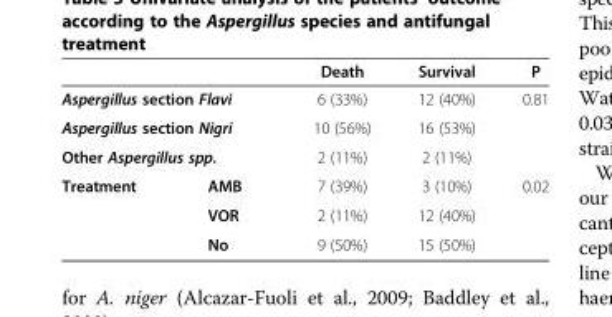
<table><thead><tr><td></td><td></td><td>Death</td><td>Survival</td><td>P</td></tr></thead><tbody><tr><td colspan="2">Aspergillus section Flavi</td><td>6 (33%)</td><td>12 (40%)</td><td rowspan="3">0.81</td></tr><tr><td colspan="2">Aspergillus section Nigri</td><td>10 (56%)</td><td>16 (53%)</td></tr><tr><td colspan="2">Other Aspergillus spp.</td><td>2 (11%)</td><td>2 (11%)</td></tr><tr><td rowspan="3">Treatment</td><td>AMB</td><td>7 (39%)</td><td>3 (10%)</td><td rowspan="2">0.02</td></tr><tr><td>VOR</td><td>2 (11%)</td><td>12 (40%)</td></tr><tr><td>No</td><td>9 (50%)</td><td>15 (50%)</td><td></td></tr></tbody></table>